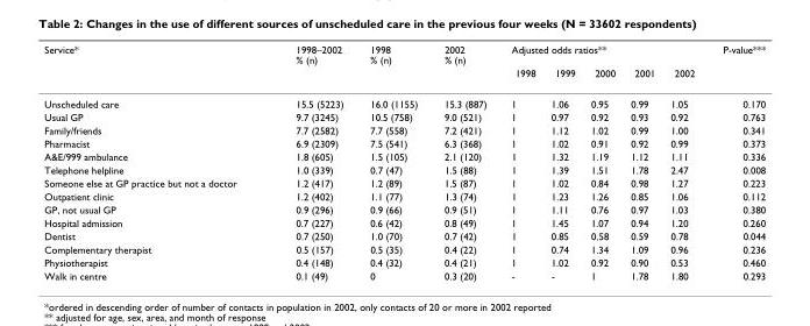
<table><thead><tr><td rowspan="2">Service*</td><td rowspan="2">1998–2002 % (n)</td><td rowspan="2">1998 % (n)</td><td rowspan="2">2002 % (n)</td><td colspan="5">Adjusted odds ratios**</td><td rowspan="2">P-value***</td></tr><tr><td>1998</td><td>1999</td><td>2000</td><td>2001</td><td>2002</td></tr></thead><tbody><tr><td>Unscheduled care</td><td>15.5 (5223)</td><td>16.0 (1155)</td><td>15.3 (887)</td><td>1</td><td>1.06</td><td>0.95</td><td>0.99</td><td>1.05</td><td>0.170</td></tr><tr><td>Usual GP</td><td>9.7 (3245)</td><td>10.5 (758)</td><td>9.0 (521)</td><td>1</td><td>0.97</td><td>0.92</td><td>0.93</td><td>0.92</td><td>0.763</td></tr><tr><td>Family/friends</td><td>7.7 (2582)</td><td>7.7 (558)</td><td>7.2 (421)</td><td>1</td><td>1.12</td><td>1.02</td><td>0.99</td><td>1.00</td><td>0.341</td></tr><tr><td>Pharmacist</td><td>6.9 (2309)</td><td>7.5 (541)</td><td>6.3 (368)</td><td>1</td><td>1.02</td><td>0.91</td><td>0.92</td><td>0.99</td><td>0.373</td></tr><tr><td>A&amp;E/999 ambulance</td><td>1.8 (605)</td><td>1.5 (105)</td><td>2.1 (120)</td><td>1</td><td>1.32</td><td>1.19</td><td>1.12</td><td>1.11</td><td>0.336</td></tr><tr><td>Telephone helpline</td><td>1.0 (339)</td><td>0.7 (47)</td><td>1.5 (88)</td><td>1</td><td>1.39</td><td>1.51</td><td>1.78</td><td>2.47</td><td>0.008</td></tr><tr><td>Someone else at GP practice but not a doctor</td><td>1.2 (417)</td><td>1.2 (89)</td><td>1.5 (87)</td><td>1</td><td>1.02</td><td>0.84</td><td>0.98</td><td>1.27</td><td>0.223</td></tr><tr><td>Outpatient clinic</td><td>1.2 (402)</td><td>1.1 (77)</td><td>1.3 (74)</td><td>1</td><td>1.23</td><td>1.26</td><td>0.85</td><td>1.06</td><td>0.112</td></tr><tr><td>GP, not usual GP</td><td>0.9 (296)</td><td>0.9 (66)</td><td>0.9 (51)</td><td>1</td><td>1.11</td><td>0.76</td><td>0.97</td><td>1.03</td><td>0.380</td></tr><tr><td>Hospital admission</td><td>0.7 (227)</td><td>0.6 (42)</td><td>0.8 (49)</td><td>1</td><td>1.45</td><td>1.07</td><td>0.94</td><td>1.20</td><td>0.260</td></tr><tr><td>Dentist</td><td>0.7 (250)</td><td>1.0 (70)</td><td>0.7 (42)</td><td>1</td><td>0.85</td><td>0.58</td><td>0.59</td><td>0.78</td><td>0.044</td></tr><tr><td>Complementary therapist</td><td>0.5 (157)</td><td>0.5 (35)</td><td>0.4 (22)</td><td>1</td><td>0.74</td><td>1.34</td><td>1.09</td><td>0.96</td><td>0.236</td></tr><tr><td>Physiotherapist</td><td>0.4 (148)</td><td>0.4 (32)</td><td>0.4 (21)</td><td>1</td><td>1.02</td><td>0.92</td><td>0.90</td><td>0.53</td><td>0.460</td></tr><tr><td>Walk in centre</td><td>0.1 (49)</td><td>0</td><td>0.3 (20)</td><td>-</td><td>-</td><td>1</td><td>1.78</td><td>1.80</td><td>0.293</td></tr></tbody></table>